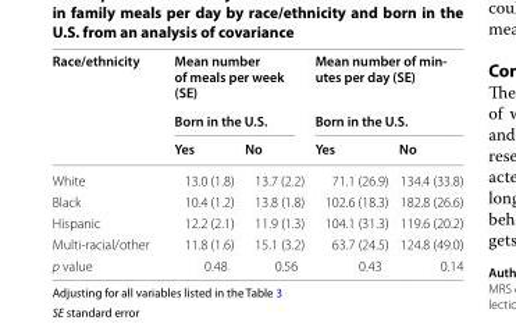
<table><thead><tr><td rowspan="3">Race/ethnicity</td><td rowspan="2" colspan="2">Mean number of meals per week (SE) Born in the U.S.</td><td rowspan="2" colspan="2">Mean number of min- utes per day (SE) Born in the U.S.</td></tr><tr></tr><tr><td>Yes</td><td>No</td><td>Yes</td><td>No</td></tr></thead><tbody><tr><td>White</td><td>13.0 (1.8)</td><td>13.7 (2.2)</td><td>71.1 (26.9)</td><td>134.4 (33.8)</td></tr><tr><td>Black</td><td>10.4 (1.2)</td><td>13.8 (1.8)</td><td>102.6 (18.3)</td><td>182.8 (26.6)</td></tr><tr><td>Hispanic</td><td>12.2 (2.1)</td><td>11.9 (1.3)</td><td>104.1 (31.3)</td><td>119.6 (20.2)</td></tr><tr><td>Multi‑racial/other</td><td>11.8 (1.6)</td><td>15.1 (3.2)</td><td>63.7 (24.5)</td><td>124.8 (49.0)</td></tr><tr><td>p value</td><td>0.48</td><td>0.56</td><td>0.43</td><td>0.14</td></tr></tbody></table>